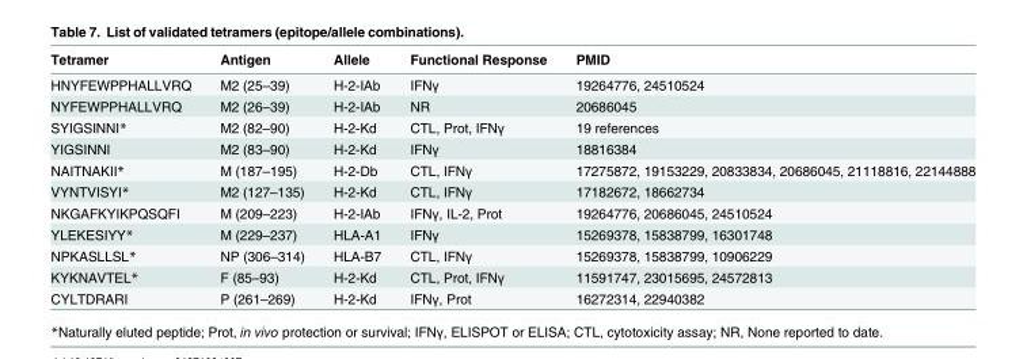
<table><thead><tr><td>Tetramer</td><td>Antigen</td><td>Allele</td><td>Functional Response</td><td>PMID</td></tr></thead><tbody><tr><td>HNYFEWPPHALLVRQ</td><td>M2 (25–39)</td><td>H-2-IAb</td><td>IFNγ</td><td>19264776, 24510524</td></tr><tr><td>NYFEWPPHALLVRQ</td><td>M2 (26–39)</td><td>H-2-IAb</td><td>NR</td><td>20686045</td></tr><tr><td>SYIGSINNI*</td><td>M2 (82–90)</td><td>H-2-Kd</td><td>CTL, Prot, IFNγ</td><td>19 references</td></tr><tr><td>YIGSINNI</td><td>M2 (83–90)</td><td>H-2-Kd</td><td>IFNγ</td><td>18816384</td></tr><tr><td>NAITNAKII*</td><td>M (187–195)</td><td>H-2-Db</td><td>CTL, IFNγ</td><td>17275872, 19153229, 20833834, 20686045, 21118816, 22144888</td></tr><tr><td>VYNTVISYI*</td><td>M2 (127–135)</td><td>H-2-Kd</td><td>CTL, IFNγ</td><td>17182672, 18662734</td></tr><tr><td>NKGAFKYIKPQSQFI</td><td>M (209–223)</td><td>H-2-IAb</td><td>IFNγ, IL-2, Prot</td><td>19264776, 20686045, 24510524</td></tr><tr><td>YLEKESIYY*</td><td>M (229–237)</td><td>HLA-A1</td><td>IFNγ</td><td>15269378, 15838799, 16301748</td></tr><tr><td>NPKASLLSL*</td><td>NP (306–314)</td><td>HLA-B7</td><td>CTL, IFNγ</td><td>15269378, 15838799, 10906229</td></tr><tr><td>KYKNAVTEL*</td><td>F (85–93)</td><td>H-2-Kd</td><td>CTL, Prot, IFNγ</td><td>11591747, 23015695, 24572813</td></tr><tr><td>CYLTDRARI</td><td>P (261–269)</td><td>H-2-Kd</td><td>IFNγ, Prot</td><td>16272314, 22940382</td></tr></tbody></table>